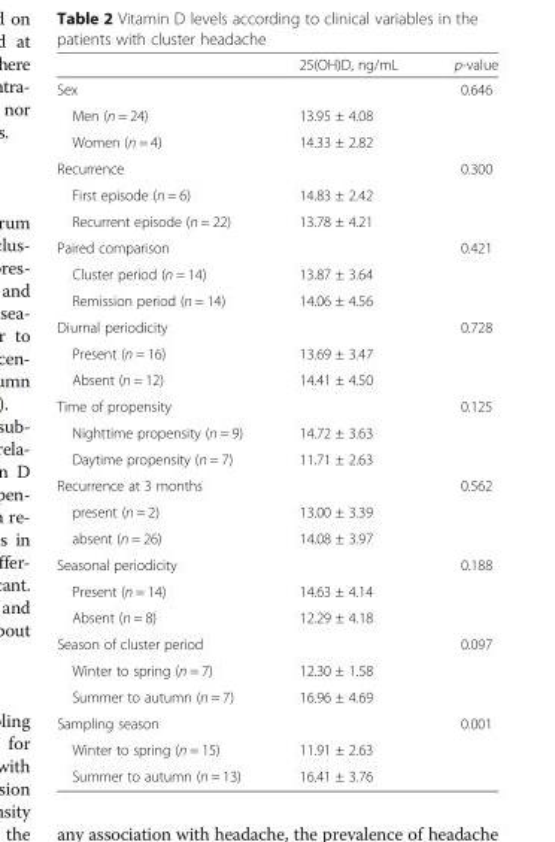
<table><thead><tr><td></td><td>25(OH)D, ng/mL</td><td>p-value</td></tr></thead><tbody><tr><td>Sex</td><td></td><td>0.646</td></tr><tr><td>Men (n = 24)</td><td>13.95 ± 4.08</td><td></td></tr><tr><td>Women (n = 4)</td><td>14.33 ± 2.82</td><td></td></tr><tr><td>Recurrence</td><td></td><td>0.300</td></tr><tr><td>First episode (n = 6)</td><td>14.83 ± 2.42</td><td></td></tr><tr><td>Recurrent episode (n = 22)</td><td>13.78 ± 4.21</td><td></td></tr><tr><td>Paired comparison</td><td></td><td>0.421</td></tr><tr><td>Cluster period (n = 14)</td><td>13.87 ± 3.64</td><td></td></tr><tr><td>Remission period (n = 14)</td><td>14.06 ± 4.56</td><td></td></tr><tr><td>Diurnal periodicity</td><td></td><td>0.728</td></tr><tr><td>Present (n = 16)</td><td>13.69 ± 3.47</td><td></td></tr><tr><td>Absent (n = 12)</td><td>14.41 ± 4.50</td><td></td></tr><tr><td>Time of propensity</td><td></td><td>0.125</td></tr><tr><td>Nighttime propensity (n = 9)</td><td>14.72 ± 3.63</td><td></td></tr><tr><td>Daytime propensity (n = 7)</td><td>11.71 ± 2.63</td><td></td></tr><tr><td>Recurrence at 3 months</td><td></td><td>0.562</td></tr><tr><td>present (n = 2)</td><td>13.00 ± 3.39</td><td></td></tr><tr><td>absent (n = 26)</td><td>14.08 ± 3.97</td><td></td></tr><tr><td>Seasonal periodicity</td><td></td><td>0.188</td></tr><tr><td>Present (n = 14)</td><td>14.63 ± 4.14</td><td></td></tr><tr><td>Absent (n = 8)</td><td>12.29 ± 4.18</td><td></td></tr><tr><td>Season of cluster period</td><td></td><td>0.097</td></tr><tr><td>Winter to spring (n = 7)</td><td>12.30 ± 1.58</td><td></td></tr><tr><td>Summer to autumn (n = 7)</td><td>16.96 ± 4.69</td><td></td></tr><tr><td>Sampling season</td><td></td><td>0.001</td></tr><tr><td>Winter to spring (n = 15)</td><td>11.91 ± 2.63</td><td></td></tr><tr><td>Summer to autumn (n = 13)</td><td>16.41 ± 3.76</td><td></td></tr></tbody></table>